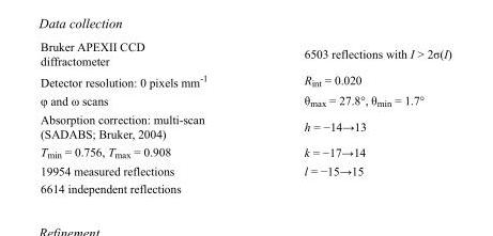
<table><tbody><tr><td>Bruker APEXII CCD diffractometer</td><td>6503 reflections with I &gt; 2σ(I)</td></tr><tr><td>Detector resolution: 0 pixels mm<sup>-1</sup></td><td>R<sub>int</sub> = 0.020</td></tr><tr><td>φ and ω scans</td><td>θ<sub>max</sub> = 27.8°, θ<sub>min</sub> = 1.7°</td></tr><tr><td>Absorption correction: multi-scan (SADABS; Bruker, 2004)</td><td>h = −14→13</td></tr><tr><td>T<sub>min</sub> = 0.756, T<sub>max</sub> = 0.908</td><td>k = −17→14</td></tr><tr><td>19954 measured reflections</td><td>l = −15→15</td></tr><tr><td>6614 independent reflections</td><td></td></tr></tbody></table>